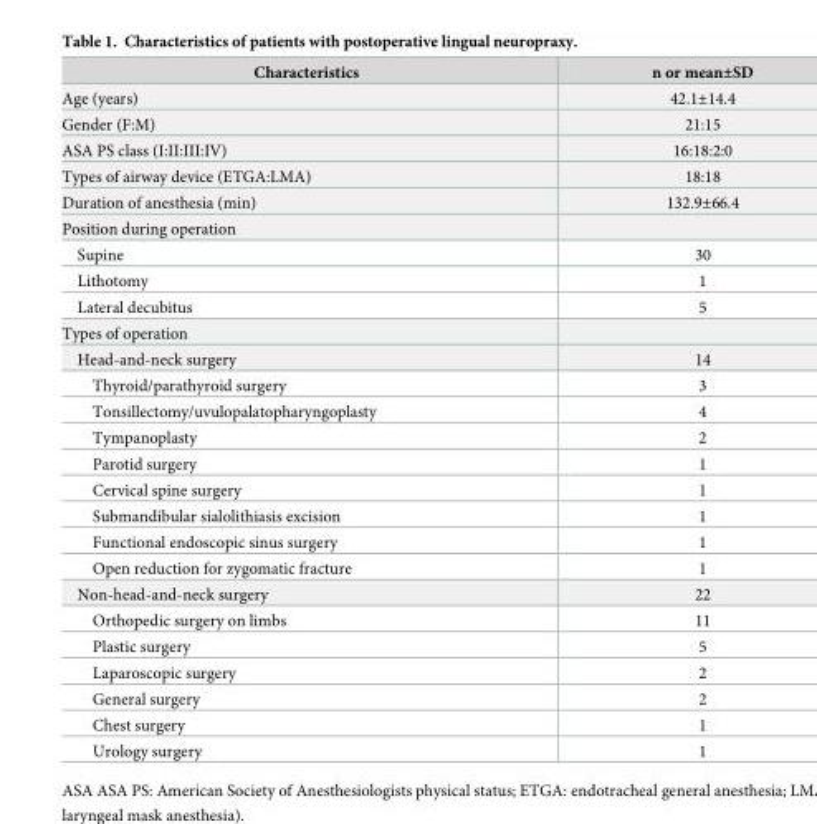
<table><thead><tr><td>Characteristics</td><td>n or mean±SD</td></tr></thead><tbody><tr><td>Age (years)</td><td>42.1±14.4</td></tr><tr><td>Gender (F:M)</td><td>21:15</td></tr><tr><td>ASA PS class (I:II:III:IV)</td><td>16:18:2:0</td></tr><tr><td>Types of airway device (ETGA:LMA)</td><td>18:18</td></tr><tr><td>Duration of anesthesia (min)</td><td>132.9±66.4</td></tr><tr><td colspan="2">Position during operation</td></tr><tr><td>Supine</td><td>30</td></tr><tr><td>Lithotomy</td><td>1</td></tr><tr><td>Lateral decubitus</td><td>5</td></tr><tr><td colspan="2">Types of operation</td></tr><tr><td>Head-and-neck surgery</td><td>14</td></tr><tr><td>Thyroid/parathyroid surgery</td><td>3</td></tr><tr><td>Tonsillectomy/uvulopalatopharyngoplasty</td><td>4</td></tr><tr><td>Tympanoplasty</td><td>2</td></tr><tr><td>Parotid surgery</td><td>1</td></tr><tr><td>Cervical spine surgery</td><td>1</td></tr><tr><td>Submandibular sialolithiasis excision</td><td>1</td></tr><tr><td>Functional endoscopic sinus surgery</td><td>1</td></tr><tr><td>Open reduction for zygomatic fracture</td><td>1</td></tr><tr><td>Non-head-and-neck surgery</td><td>22</td></tr><tr><td>Orthopedic surgery on limbs</td><td>11</td></tr><tr><td>Plastic surgery</td><td>5</td></tr><tr><td>Laparoscopic surgery</td><td>2</td></tr><tr><td>General surgery</td><td>2</td></tr><tr><td>Chest surgery</td><td>1</td></tr><tr><td>Urology surgery</td><td>1</td></tr></tbody></table>